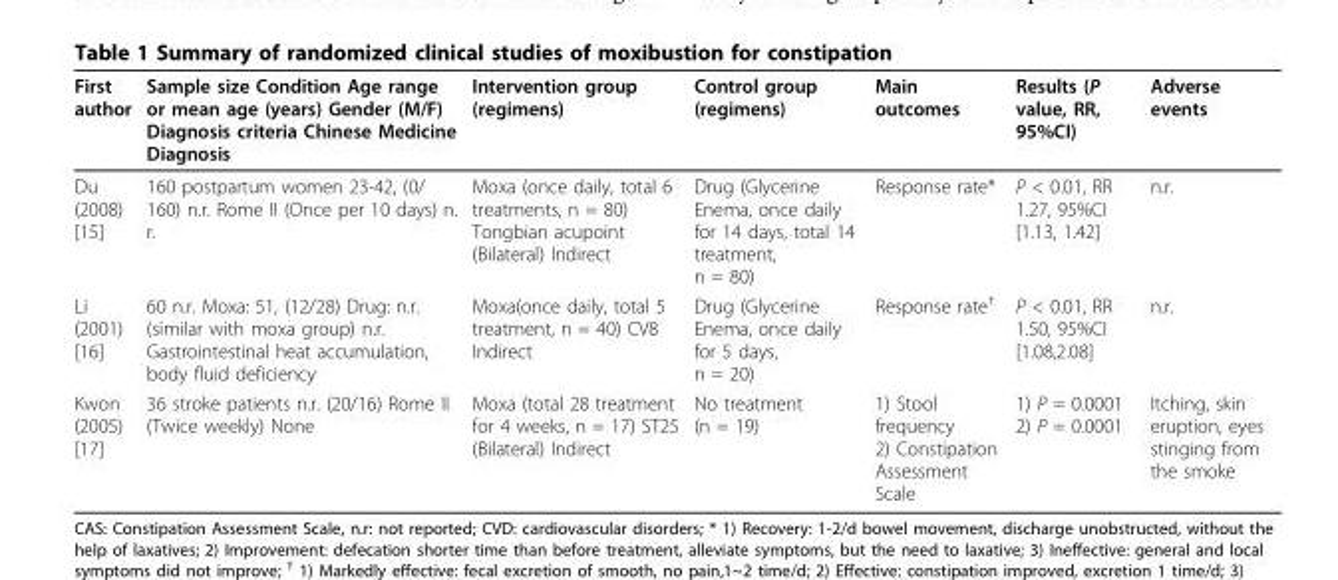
<table><thead><tr><td>First author</td><td>Sample size Condition Age range or mean age (years) Gender (M/F) Diagnosis criteria Chinese Medicine Diagnosis</td><td>Intervention group (regimens)</td><td>Control group (regimens)</td><td>Main outcomes</td><td>Results (P value, RR, 95%CI)</td><td>Adverse events</td></tr></thead><tbody><tr><td>Du (2008) [15]</td><td>160 postpartum women 23-42, (0/ 160) n.r. Rome II (Once per 10 days) n. r.</td><td>Moxa (once daily, total 6 treatments, n = 80) Tongbian acupoint (Bilateral) Indirect</td><td>Drug (Glycerine Enema, once daily for 14 days, total 14 treatment, n = 80)</td><td>Response rate*</td><td>P &lt; 0.01, RR 1.27, 95%CI [1.13, 1.42]</td><td>n.r.</td></tr><tr><td>Li (2001) [16]</td><td>60 n.r. Moxa: 51, (12/28) Drug: n.r. (similar with moxa group) n.r. Gastrointestinal heat accumulation, body fluid deficiency</td><td>Moxa(once daily, total 5 treatment, n = 40) CV8 Indirect</td><td>Drug (Glycerine Enema, once daily for 5 days, n = 20)</td><td>Response rate<sup>†</sup></td><td>P &lt; 0.01, RR 1.50, 95%CI [1.08,2.08]</td><td>n.r.</td></tr><tr><td>Kwon (2005) [17]</td><td>36 stroke patients n.r. (20/16) Rome II (Twice weekly) None</td><td>Moxa (total 28 treatment for 4 weeks, n = 17) ST25 (Bilateral) Indirect</td><td>No treatment (n = 19)</td><td>1) Stool frequency 2) Constipation Assessment Scale</td><td>1) P = 0.0001 2) P = 0.0001</td><td>Itching, skin eruption, eyes stinging from the smoke</td></tr></tbody></table>